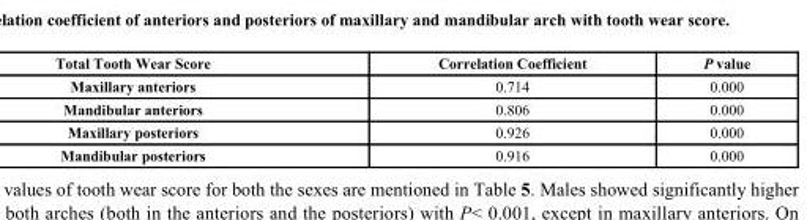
<table><thead><tr><td>Total Tooth Wear Score</td><td>Correlation Coefficient</td><td>P value</td></tr></thead><tbody><tr><td>Maxillary anteriors</td><td>0.714</td><td>0.000</td></tr><tr><td>Mandibular anteriors</td><td>0.806</td><td>0.000</td></tr><tr><td>Maxillary posteriors</td><td>0.926</td><td>0.000</td></tr><tr><td>Mandibular posteriors</td><td>0.916</td><td>0.000</td></tr></tbody></table>